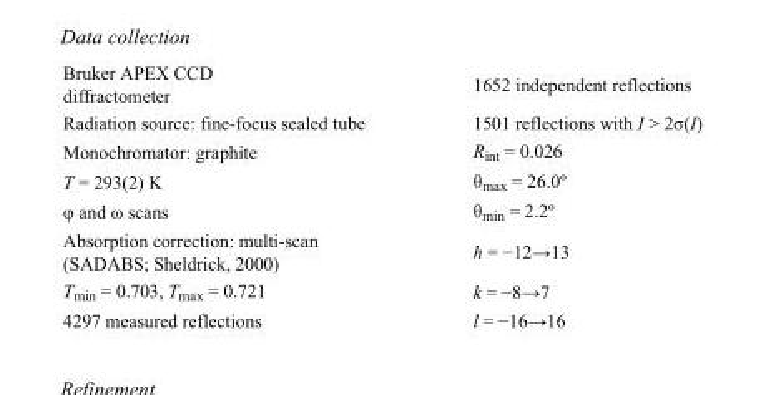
<table><tbody><tr><td>Bruker APEX CCD diffractometer</td><td>1652 independent reflections</td></tr><tr><td>Radiation source: fine-focus sealed tube</td><td>1501 reflections with I &gt; 2σ(I)</td></tr><tr><td>Monochromator: graphite</td><td>R<sub>int</sub> = 0.026</td></tr><tr><td>T = 293(2) K</td><td>θ<sub>max</sub> = 26.0º</td></tr><tr><td>φ and ω scans</td><td>θ<sub>min</sub> = 2.2º</td></tr><tr><td>Absorption correction: multi-scan (SADABS; Sheldrick, 2000)</td><td>h = −12→13</td></tr><tr><td>T<sub>min</sub> = 0.703, T<sub>max</sub> = 0.721</td><td>k = −8→7</td></tr><tr><td>4297 measured reflections</td><td>l = −16→16</td></tr></tbody></table>